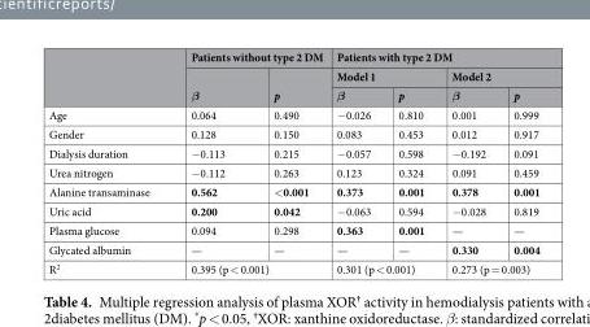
<table><thead><tr><td rowspan="3"></td><td colspan="2">Patients without type 2 DM</td><td colspan="4">Patients with type 2 DM</td></tr><tr><td rowspan="2">β</td><td rowspan="2">p</td><td colspan="2">Model 1</td><td colspan="2">Model 2</td></tr><tr><td>β</td><td>p</td><td>β</td><td>p</td></tr></thead><tbody><tr><td>Age</td><td>0.064</td><td>0.490</td><td>−0.026</td><td>0.810</td><td>0.001</td><td>0.999</td></tr><tr><td>Gender</td><td>0.128</td><td>0.150</td><td>0.083</td><td>0.453</td><td>0.012</td><td>0.917</td></tr><tr><td>Dialysis duration</td><td>−0.113</td><td>0.215</td><td>−0.057</td><td>0.598</td><td>−0.192</td><td>0.091</td></tr><tr><td>Urea nitrogen</td><td>−0.112</td><td>0.263</td><td>0.123</td><td>0.324</td><td>0.091</td><td>0.459</td></tr><tr><td>Alanine transaminase</td><td>0.562</td><td>&lt;0.001</td><td>0.373</td><td>0.001</td><td>0.378</td><td>0.001</td></tr><tr><td>Uric acid</td><td>0.200</td><td>0.042</td><td>−0.063</td><td>0.594</td><td>−0.028</td><td>0.819</td></tr><tr><td>Plasma glucose</td><td>0.094</td><td>0.298</td><td>0.363</td><td>0.001</td><td>—</td><td>—</td></tr><tr><td>Glycated albumin</td><td>—</td><td>—</td><td>—</td><td>—</td><td>0.330</td><td>0.004</td></tr><tr><td>R<sup>2</sup></td><td colspan="2">0.395 (p &lt; 0.001)</td><td colspan="2">0.301 (p &lt; 0.001)</td><td colspan="2">0.273 (p = 0.003)</td></tr></tbody></table>